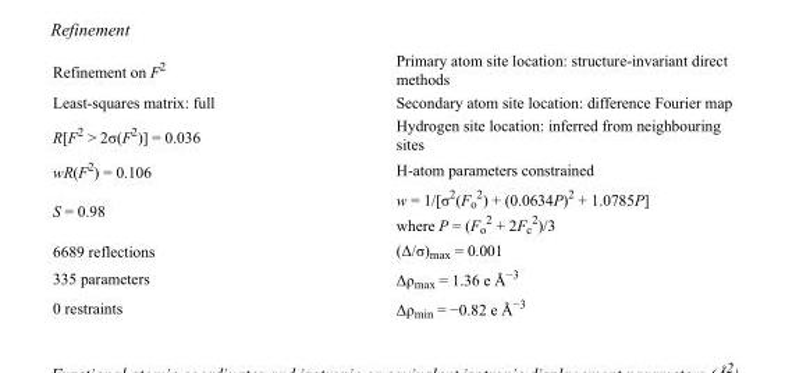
<table><tbody><tr><td>Refinement on F<sup>2</sup></td><td>Primary atom site location: structure-invariant direct methods</td></tr><tr><td>Least-squares matrix: full</td><td>Secondary atom site location: difference Fourier map</td></tr><tr><td>R[F<sup>2</sup> &gt; 2σ(F<sup>2</sup>)] = 0.036</td><td>Hydrogen site location: inferred from neighbouring sites</td></tr><tr><td>wR(F<sup>2</sup>) = 0.106</td><td>H-atom parameters constrained</td></tr><tr><td>S = 0.98</td><td>w = 1/[σ<sup>2</sup>(F<sub>o</sub> <sup>2</sup>) + (0.0634P)<sup>2</sup> + 1.0785P] where P = (F<sub>o</sub> <sup>2</sup> + 2F<sub>c</sub> <sup>2</sup>)/3</td></tr><tr><td>6689 reflections</td><td>(Δ/σ)<sub>max</sub> = 0.001</td></tr><tr><td>335 parameters</td><td>Δρ<sub>max</sub> = 1.36 e Å<sup>−3</sup></td></tr><tr><td>0 restraints</td><td>Δρ<sub>min</sub> = −0.82 e Å<sup>−3</sup></td></tr></tbody></table>